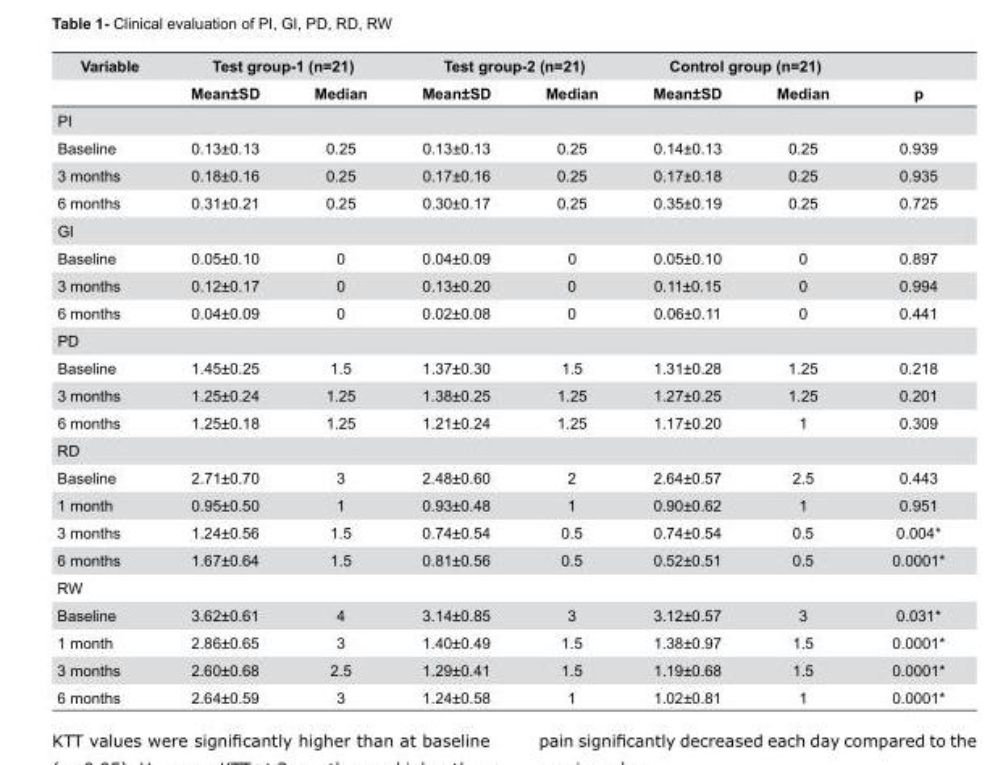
<table><thead><tr><td rowspan="2">Variable</td><td colspan="2">Test group-1 (n=21)</td><td colspan="2">Test group-2 (n=21)</td><td colspan="2">Control group (n=21)</td><td rowspan="2">p</td></tr><tr><td>Mean±SD</td><td>Median</td><td>Mean±SD</td><td>Median</td><td>Mean±SD</td><td>Median</td></tr></thead><tbody><tr><td colspan="8">PI</td></tr><tr><td>Baseline</td><td>0.13±0.13</td><td>0.25</td><td>0.13±0.13</td><td>0.25</td><td>0.14±0.13</td><td>0.25</td><td>0.939</td></tr><tr><td>3 months</td><td>0.18±0.16</td><td>0.25</td><td>0.17±0.16</td><td>0.25</td><td>0.17±0.18</td><td>0.25</td><td>0.935</td></tr><tr><td>6 months</td><td>0.31±0.21</td><td>0.25</td><td>0.30±0.17</td><td>0.25</td><td>0.35±0.19</td><td>0.25</td><td>0.725</td></tr><tr><td colspan="8">GI</td></tr><tr><td>Baseline</td><td>0.05±0.10</td><td>0</td><td>0.04±0.09</td><td>0</td><td>0.05±0.10</td><td>0</td><td>0.897</td></tr><tr><td>3 months</td><td>0.12±0.17</td><td>0</td><td>0.13±0.20</td><td>0</td><td>0.11±0.15</td><td>0</td><td>0.994</td></tr><tr><td>6 months</td><td>0.04±0.09</td><td>0</td><td>0.02±0.08</td><td>0</td><td>0.06±0.11</td><td>0</td><td>0.441</td></tr><tr><td colspan="8">PD</td></tr><tr><td>Baseline</td><td>1.45±0.25</td><td>1.5</td><td>1.37±0.30</td><td>1.5</td><td>1.31±0.28</td><td>1.25</td><td>0.218</td></tr><tr><td>3 months</td><td>1.25±0.24</td><td>1.25</td><td>1.38±0.25</td><td>1.25</td><td>1.27±0.25</td><td>1.25</td><td>0.201</td></tr><tr><td>6 months</td><td>1.25±0.18</td><td>1.25</td><td>1.21±0.24</td><td>1.25</td><td>1.17±0.20</td><td>1</td><td>0.309</td></tr><tr><td colspan="8">RD</td></tr><tr><td>Baseline</td><td>2.71±0.70</td><td>3</td><td>2.48±0.60</td><td>2</td><td>2.64±0.57</td><td>2.5</td><td>0.443</td></tr><tr><td>1 month</td><td>0.95±0.50</td><td>1</td><td>0.93±0.48</td><td>1</td><td>0.90±0.62</td><td>1</td><td>0.951</td></tr><tr><td>3 months</td><td>1.24±0.56</td><td>1.5</td><td>0.74±0.54</td><td>0.5</td><td>0.74±0.54</td><td>0.5</td><td>0.004*</td></tr><tr><td>6 months</td><td>1.67±0.64</td><td>1.5</td><td>0.81±0.56</td><td>0.5</td><td>0.52±0.51</td><td>0.5</td><td>0.0001*</td></tr><tr><td colspan="8">RW</td></tr><tr><td>Baseline</td><td>3.62±0.61</td><td>4</td><td>3.14±0.85</td><td>3</td><td>3.12±0.57</td><td>3</td><td>0.031*</td></tr><tr><td>1 month</td><td>2.86±0.65</td><td>3</td><td>1.40±0.49</td><td>1.5</td><td>1.38±0.97</td><td>1.5</td><td>0.0001*</td></tr><tr><td>3 months</td><td>2.60±0.68</td><td>2.5</td><td>1.29±0.41</td><td>1.5</td><td>1.19±0.68</td><td>1.5</td><td>0.0001*</td></tr><tr><td>6 months</td><td>2.64±0.59</td><td>3</td><td>1.24±0.58</td><td>1</td><td>1.02±0.81</td><td>1</td><td>0.0001*</td></tr></tbody></table>